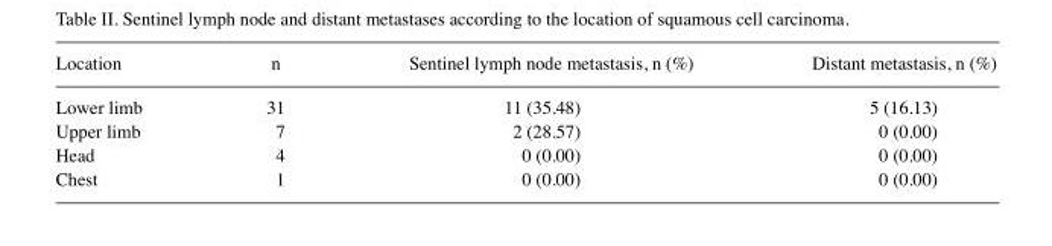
<table><thead><tr><td>Location</td><td>n</td><td>Sentinel lymph node metastasis, n (%)</td><td>Distant metastasis, n (%)</td></tr></thead><tbody><tr><td>Lower limb</td><td>31</td><td>11 (35.48)</td><td>5 (16.13)</td></tr><tr><td>Upper limb</td><td>7</td><td>2 (28.57)</td><td>0 (0.00)</td></tr><tr><td>Head</td><td>4</td><td>0 (0.00)</td><td>0 (0.00)</td></tr><tr><td>Chest</td><td>1</td><td>0 (0.00)</td><td>0 (0.00)</td></tr></tbody></table>